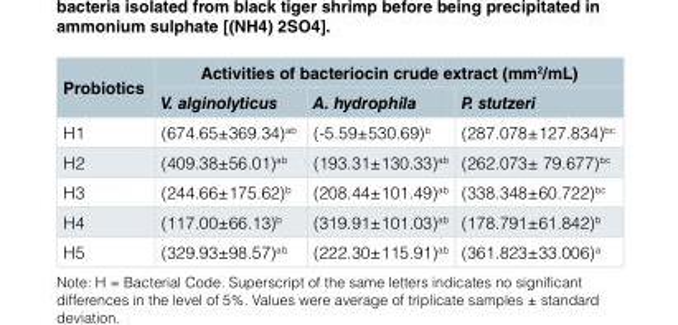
<table><thead><tr><td rowspan="2">Probiotics</td><td colspan="3">Activities of bacteriocin crude extract (mm<sup>2</sup>/mL)</td></tr><tr><td>V. alginolyticus</td><td>A. hydrophila</td><td>P. stutzeri</td></tr></thead><tbody><tr><td>H1</td><td>(674.65±369.34)<sup>ab</sup></td><td>(-5.59±530.69)<sup>b</sup></td><td>(287.078±127.834)<sup>bc</sup></td></tr><tr><td>H2</td><td>(409.38±56.01)<sup>ab</sup></td><td>(193.31±130.33)<sup>ab</sup></td><td>(262.073± 79.677)<sup>bc</sup></td></tr><tr><td>H3</td><td>(244.66±175.62)<sup>b</sup></td><td>(208.44±101.49)<sup>ab</sup></td><td>(338.348±60.722)<sup>bc</sup></td></tr><tr><td>H4</td><td>(117.00±66.13)<sup>b</sup></td><td>(319.91±101.03)<sup>ab</sup></td><td>(178.791±61.842)<sup>b</sup></td></tr><tr><td>H5</td><td>(329.93±98.57)<sup>ab</sup></td><td>(222.30±115.91)<sup>ab</sup></td><td>(361.823±33.006)<sup>a</sup></td></tr></tbody></table>